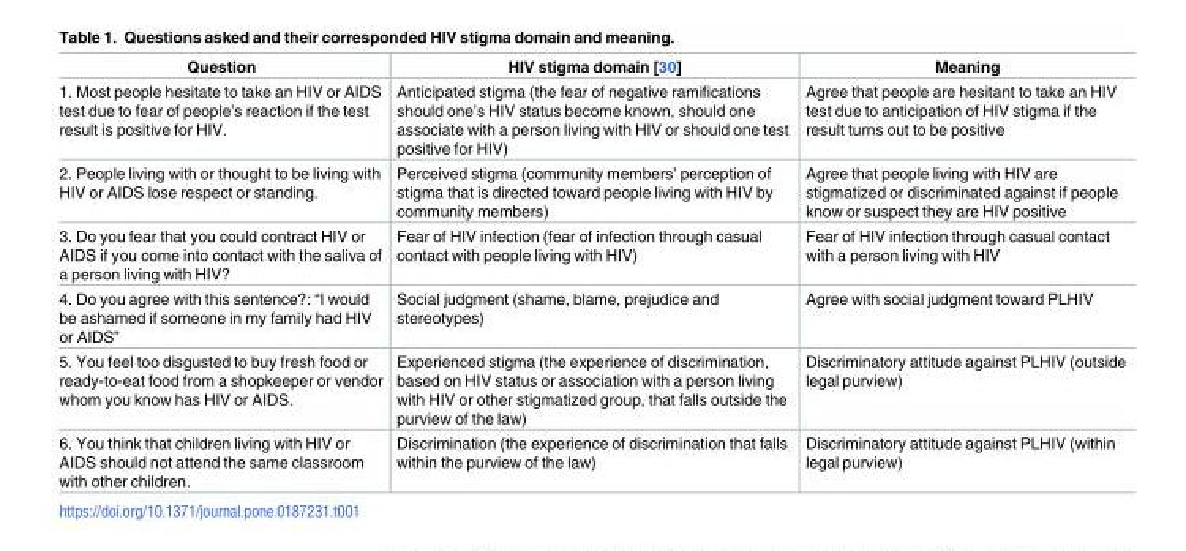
<table><thead><tr><td>Question</td><td>HIV stigma domain [30]</td><td>Meaning</td></tr></thead><tbody><tr><td>1. Most people hesitate to take an HIV or AIDS test due to fear of people’s reaction if the test result is positive for HIV.</td><td>Anticipated stigma (the fear of negative ramifications should one’s HIV status become known, should one associate with a person living with HIV or should one test positive for HIV)</td><td>Agree that people are hesitant to take an HIV test due to anticipation of HIV stigma if the result turns out to be positive</td></tr><tr><td>2. People living with or thought to be living with HIV or AIDS lose respect or standing.</td><td>Perceived stigma (community members’ perception of stigma that is directed toward people living with HIV by community members)</td><td>Agree that people living with HIV are stigmatized or discriminated against if people know or suspect they are HIV positive</td></tr><tr><td>3. Do you fear that you could contract HIV or AIDS if you come into contact with the saliva of a person living with HIV?</td><td>Fear of HIV infection (fear of infection through casual contact with people living with HIV)</td><td>Fear of HIV infection through casual contact with a person living with HIV</td></tr><tr><td>4. Do you agree with this sentence?: “I would be ashamed if someone in my family had HIV or AIDS”</td><td>Social judgment (shame, blame, prejudice and stereotypes)</td><td>Agree with social judgment toward PLHIV</td></tr><tr><td>5. You feel too disgusted to buy fresh food or ready-to-eat food from a shopkeeper or vendor whom you know has HIV or AIDS.</td><td>Experienced stigma (the experience of discrimination, based on HIV status or association with a person living with HIV or other stigmatized group, that falls outside the purview of the law)</td><td>Discriminatory attitude against PLHIV (outside legal purview)</td></tr><tr><td>6. You think that children living with HIV or AIDS should not attend the same classroom with other children.</td><td>Discrimination (the experience of discrimination that falls within the purview of the law)</td><td>Discriminatory attitude against PLHIV (within legal purview)</td></tr></tbody></table>